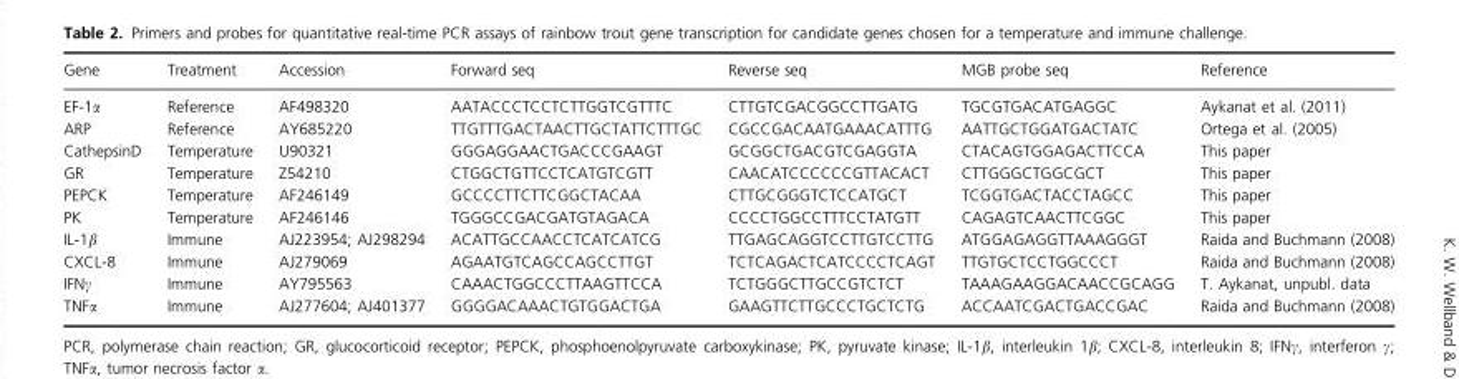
<table><thead><tr><td>Gene</td><td>Treatment</td><td>Accession</td><td>Forward seq</td><td>Reverse seq</td><td>MGB probe seq</td><td>Reference</td></tr></thead><tbody><tr><td>EF-1α</td><td>Reference</td><td>AF498320</td><td>AATACCCTCCTCTTGGTCGTTTC</td><td>CTTGTCGACGGCCTTGATG</td><td>TGCGTGACATGAGGC</td><td>Aykanat et al. (2011)</td></tr><tr><td>ARP</td><td>Reference</td><td>AY685220</td><td>TTGTTTGACTAACTTGCTATTCTTTGC</td><td>CGCCGACAATGAAACATTTG</td><td>AATTGCTGGATGACTATC</td><td>Ortega et al. (2005)</td></tr><tr><td>CathepsinD</td><td>Temperature</td><td>U90321</td><td>GGGAGGAACTGACCCGAAGT</td><td>GCGGCTGACGTCGAGGTA</td><td>CTACAGTGGAGACTTCCA</td><td>This paper</td></tr><tr><td>GR</td><td>Temperature</td><td>Z54210</td><td>CTGGCTGTTCCTCATGTCGTT</td><td>CAACATCCCCCCGTTACACT</td><td>CTTGGGCTGGCGCT</td><td>This paper</td></tr><tr><td>PEPCK</td><td>Temperature</td><td>AF246149</td><td>GCCCCTTCTTCGGCTACAA</td><td>CTTGCGGGTCTCCATGCT</td><td>TCGGTGACTACCTAGCC</td><td>This paper</td></tr><tr><td>PK</td><td>Temperature</td><td>AF246146</td><td>TGGGCCGACGATGTAGACA</td><td>CCCCTGGCCTTTCCTATGTT</td><td>CAGAGTCAACTTCGGC</td><td>This paper</td></tr><tr><td>IL-1β</td><td>Immune</td><td>AJ223954; AJ298294</td><td>ACATTGCCAACCTCATCATCG</td><td>TTGAGCAGGTCCTTGTCCTTG</td><td>ATGGAGAGGTTAAAGGGT</td><td>Raida and Buchmann (2008)</td></tr><tr><td>CXCL-8</td><td>Immune</td><td>AJ279069</td><td>AGAATGTCAGCCAGCCTTGT</td><td>TCTCAGACTCATCCCCTCAGT</td><td>TTGTGCTCCTGGCCCT</td><td>Raida and Buchmann (2008)</td></tr><tr><td>IFNγ</td><td>Immune</td><td>AY795563</td><td>CAAACTGGCCCTTAAGTTCCA</td><td>TCTGGGCTTGCCGTCTCT</td><td>TAAAGAAGGACAACCGCAGG</td><td>T. Aykanat, unpubl. data</td></tr><tr><td>TNFα</td><td>Immune</td><td>AJ277604; AJ401377</td><td>GGGGACAAACTGTGGACTGA</td><td>GAAGTTCTTGCCCTGCTCTG</td><td>ACCAATCGACTGACCGAC</td><td>Raida and Buchmann (2008)</td></tr></tbody></table>